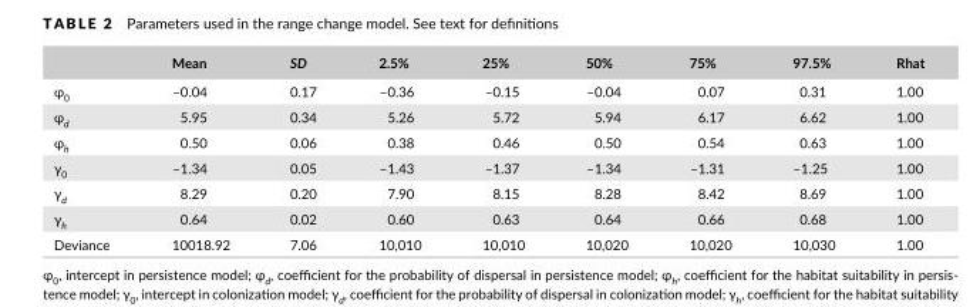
<table><thead><tr><td></td><td>Mean</td><td>SD</td><td>2.5%</td><td>25%</td><td>50%</td><td>75%</td><td>97.5%</td><td>Rhat</td></tr></thead><tbody><tr><td>φ<sub>0</sub></td><td>–0.04</td><td>0.17</td><td>–0.36</td><td>–0.15</td><td>–0.04</td><td>0.07</td><td>0.31</td><td>1.00</td></tr><tr><td>φ<sub>d</sub></td><td>5.95</td><td>0.34</td><td>5.26</td><td>5.72</td><td>5.94</td><td>6.17</td><td>6.62</td><td>1.00</td></tr><tr><td>φ<sub>h</sub></td><td>0.50</td><td>0.06</td><td>0.38</td><td>0.46</td><td>0.50</td><td>0.54</td><td>0.63</td><td>1.00</td></tr><tr><td>γ<sub>0</sub></td><td>–1.34</td><td>0.05</td><td>–1.43</td><td>–1.37</td><td>–1.34</td><td>–1.31</td><td>–1.25</td><td>1.00</td></tr><tr><td>γ<sub>d</sub></td><td>8.29</td><td>0.20</td><td>7.90</td><td>8.15</td><td>8.28</td><td>8.42</td><td>8.69</td><td>1.00</td></tr><tr><td>γ<sub>h</sub></td><td>0.64</td><td>0.02</td><td>0.60</td><td>0.63</td><td>0.64</td><td>0.66</td><td>0.68</td><td>1.00</td></tr><tr><td>Deviance</td><td>10018.92</td><td>7.06</td><td>10,010</td><td>10,010</td><td>10,020</td><td>10,020</td><td>10,030</td><td>1.00</td></tr></tbody></table>